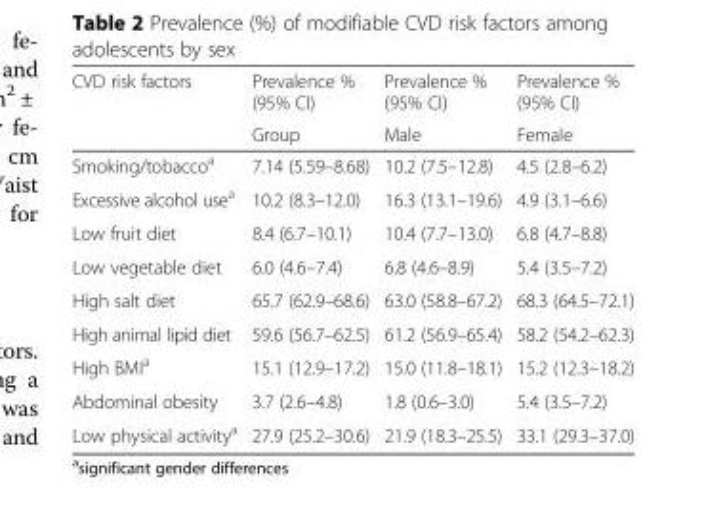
<table><thead><tr><td rowspan="2">CVD risk factors</td><td rowspan="2">Prevalence % (95% CI) Group</td><td rowspan="2">Prevalence % (95% CI) Male</td><td rowspan="2">Prevalence % (95% CI) Female</td></tr><tr></tr></thead><tbody><tr><td>Smoking/tobacco<sup>a</sup></td><td>7.14 (5.59–8.68)</td><td>10.2 (7.5–12.8)</td><td>4.5 (2.8–6.2)</td></tr><tr><td>Excessive alcohol use<sup>a</sup></td><td>10.2 (8.3–12.0)</td><td>16.3 (13.1–19.6)</td><td>4.9 (3.1–6.6)</td></tr><tr><td>Low fruit diet</td><td>8.4 (6.7–10.1)</td><td>10.4 (7.7–13.0)</td><td>6.8 (4.7–8.8)</td></tr><tr><td>Low vegetable diet</td><td>6.0 (4.6–7.4)</td><td>6.8 (4.6–8.9)</td><td>5.4 (3.5–7.2)</td></tr><tr><td>High salt diet</td><td>65.7 (62.9–68.6)</td><td>63.0 (58.8–67.2)</td><td>68.3 (64.5–72.1)</td></tr><tr><td>High animal lipid diet</td><td>59.6 (56.7–62.5)</td><td>61.2 (56.9–65.4)</td><td>58.2 (54.2–62.3)</td></tr><tr><td>High BMI<sup>a</sup></td><td>15.1 (12.9–17.2)</td><td>15.0 (11.8–18.1)</td><td>15.2 (12.3–18.2)</td></tr><tr><td>Abdominal obesity</td><td>3.7 (2.6–4.8)</td><td>1.8 (0.6–3.0)</td><td>5.4 (3.5–7.2)</td></tr><tr><td>Low physical activity<sup>a</sup></td><td>27.9 (25.2–30.6)</td><td>21.9 (18.3–25.5)</td><td>33.1 (29.3–37.0)</td></tr></tbody></table>